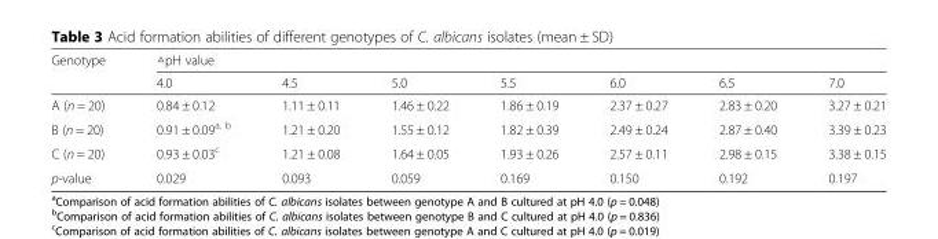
<table><thead><tr><td rowspan="2">Genotype</td><td colspan="7">△pH value</td></tr><tr><td>4.0</td><td>4.5</td><td>5.0</td><td>5.5</td><td>6.0</td><td>6.5</td><td>7.0</td></tr></thead><tbody><tr><td>A (n = 20)</td><td>0.84 ± 0.12</td><td>1.11 ± 0.11</td><td>1.46 ± 0.22</td><td>1.86 ± 0.19</td><td>2.37 ± 0.27</td><td>2.83 ± 0.20</td><td>3.27 ± 0.21</td></tr><tr><td>B (n = 20)</td><td>0.91 ± 0.09<sup>a, b</sup></td><td>1.21 ± 0.20</td><td>1.55 ± 0.12</td><td>1.82 ± 0.39</td><td>2.49 ± 0.24</td><td>2.87 ± 0.40</td><td>3.39 ± 0.23</td></tr><tr><td>C (n = 20)</td><td>0.93 ± 0.03<sup>c</sup></td><td>1.21 ± 0.08</td><td>1.64 ± 0.05</td><td>1.93 ± 0.26</td><td>2.57 ± 0.11</td><td>2.98 ± 0.15</td><td>3.38 ± 0.15</td></tr><tr><td>p-value</td><td>0.029</td><td>0.093</td><td>0.059</td><td>0.169</td><td>0.150</td><td>0.192</td><td>0.197</td></tr></tbody></table>